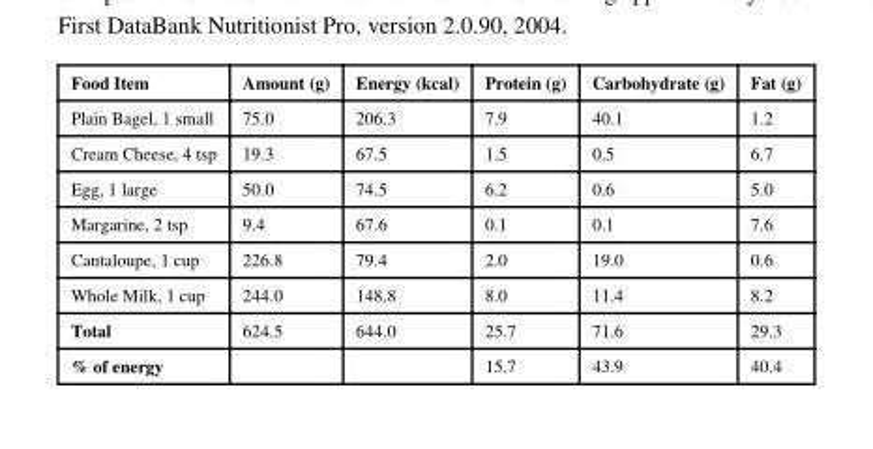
<table><thead><tr><td>Food Item</td><td>Amount (g)</td><td>Energy (kcal)</td><td>Protein (g)</td><td>Carbohydrate (g)</td><td>Fat (g)</td></tr></thead><tbody><tr><td>Plain Bagel, 1 small</td><td>75.0</td><td>206.3</td><td>7.9</td><td>40.1</td><td>1.2</td></tr><tr><td>Cream Cheese, 4 tsp</td><td>19.3</td><td>67.5</td><td>1.5</td><td>0.5</td><td>6.7</td></tr><tr><td>Egg, 1 large</td><td>50.0</td><td>74.5</td><td>6.2</td><td>0.6</td><td>5.0</td></tr><tr><td>Margarine, 2 tsp</td><td>9.4</td><td>67.6</td><td>0.1</td><td>0.1</td><td>7.6</td></tr><tr><td>Cantaloupe, 1 cup</td><td>226.8</td><td>79.4</td><td>2.0</td><td>19.0</td><td>0.6</td></tr><tr><td>Whole Milk, 1 cup</td><td>244.0</td><td>148.8</td><td>8.0</td><td>11.4</td><td>8.2</td></tr><tr><td>Total</td><td>624.5</td><td>644.0</td><td>25.7</td><td>71.6</td><td>29.3</td></tr><tr><td>% of energy</td><td></td><td></td><td>15.7</td><td>43.9</td><td>40.4</td></tr></tbody></table>